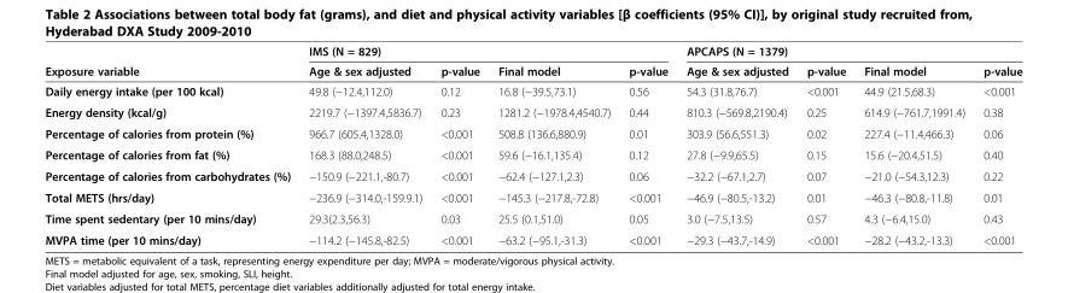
<table><thead><tr><td rowspan="2">Exposure variable</td><td colspan="4">IMS (N = 829)</td><td colspan="4">APCAPS (N = 1379)</td></tr><tr><td>Age &amp; sex adjusted</td><td>p-value</td><td>Final model</td><td>p-value</td><td>Age &amp; sex adjusted</td><td>p-value</td><td>Final model</td><td>p-value</td></tr></thead><tbody><tr><td>Daily energy intake (per 100 kcal)</td><td>49.8 (−12.4,112.0)</td><td>0.12</td><td>16.8 (−39.5,73.1)</td><td>0.56</td><td>54.3 (31.8,76.7)</td><td>&lt;0.001</td><td>44.9 (21.5,68.3)</td><td>&lt;0.001</td></tr><tr><td>Energy density (kcal/g)</td><td>2219.7 (−1397.4,5836.7)</td><td>0.23</td><td>1281.2 (−1978.4,4540.7)</td><td>0.44</td><td>810.3 (−569.8,2190.4)</td><td>0.25</td><td>614.9 (−761.7,1991.4)</td><td>0.38</td></tr><tr><td>Percentage of calories from protein (%)</td><td>966.7 (605.4,1328.0)</td><td>&lt;0.001</td><td>508.8 (136.6,880.9)</td><td>0.01</td><td>303.9 (56.6,551.3)</td><td>0.02</td><td>227.4 (−11.4,466.3)</td><td>0.06</td></tr><tr><td>Percentage of calories from fat (%)</td><td>168.3 (88.0,248.5)</td><td>&lt;0.001</td><td>59.6 (−16.1,135.4)</td><td>0.12</td><td>27.8 (−9.9,65.5)</td><td>0.15</td><td>15.6 (−20.4,51.5)</td><td>0.40</td></tr><tr><td>Percentage of calories from carbohydrates (%)</td><td>−150.9 (−221.1,-80.7)</td><td>&lt;0.001</td><td>−62.4 (−127.1,2.3)</td><td>0.06</td><td>−32.2 (−67.1,2.7)</td><td>0.07</td><td>−21.0 (−54.3,12.3)</td><td>0.22</td></tr><tr><td>Total METS (hrs/day)</td><td>−236.9 (−314.0,-159.9.1)</td><td>&lt;0.001</td><td>−145.3 (−217.8,-72.8)</td><td>&lt;0.001</td><td>−46.9 (−80.5,-13.2)</td><td>0.01</td><td>−46.3 (−80.8,-11.8)</td><td>0.01</td></tr><tr><td>Time spent sedentary (per 10 mins/day)</td><td>29.3(2.3,56.3)</td><td>0.03</td><td>25.5 (0.1,51.0)</td><td>0.05</td><td>3.0 (−7.5,13.5)</td><td>0.57</td><td>4.3 (−6.4,15.0)</td><td>0.43</td></tr><tr><td>MVPA time (per 10 mins/day)</td><td>−114.2 (−145.8,-82.5)</td><td>&lt;0.001</td><td>−63.2 (−95.1,-31.3)</td><td>&lt;0.001</td><td>−29.3 (−43.7,-14.9)</td><td>&lt;0.001</td><td>−28.2 (−43.2,-13.3)</td><td>&lt;0.001</td></tr></tbody></table>